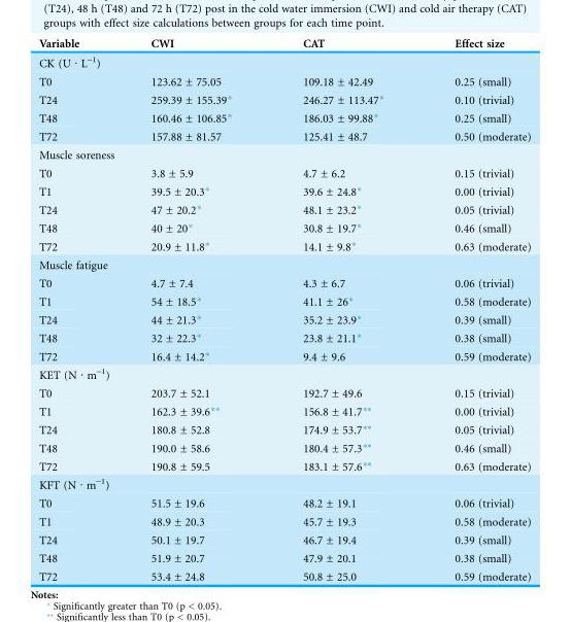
<table><thead><tr><td>Variable</td><td>CWI</td><td>CAT</td><td>Effect size</td></tr></thead><tbody><tr><td colspan="4">CK (U · L<sup>-1</sup>)</td></tr><tr><td>T0</td><td>123.62 ± 75.05</td><td>109.18 ± 42.49</td><td>0.25 (small)</td></tr><tr><td>T24</td><td>259.39 ± 155.39*</td><td>246.27 ± 113.47*</td><td>0.10 (trivial)</td></tr><tr><td>T48</td><td>160.46 ± 106.85*</td><td>186.03 ± 99.88*</td><td>0.25 (small)</td></tr><tr><td>T72</td><td>157.88 ± 81.57</td><td>125.41 ± 48.7</td><td>0.50 (moderate)</td></tr><tr><td colspan="4">Muscle soreness</td></tr><tr><td>T0</td><td>3.8 ± 5.9</td><td>4.7 ± 6.2</td><td>0.15 (trivial)</td></tr><tr><td>T1</td><td>39.5 ± 20.3*</td><td>39.6 ± 24.8*</td><td>0.00 (trivial)</td></tr><tr><td>T24</td><td>47 ± 20.2*</td><td>48.1 ± 23.2*</td><td>0.05 (trivial)</td></tr><tr><td>T48</td><td>40 ± 20*</td><td>30.8 ± 19.7*</td><td>0.46 (small)</td></tr><tr><td>T72</td><td>20.9 ± 11.8*</td><td>14.1 ± 9.8*</td><td>0.63 (moderate)</td></tr><tr><td colspan="4">Muscle fatigue</td></tr><tr><td>T0</td><td>4.7 ± 7.4</td><td>4.3 ± 6.7</td><td>0.06 (trivial)</td></tr><tr><td>T1</td><td>54 ± 18.5*</td><td>41.1 ± 26*</td><td>0.58 (moderate)</td></tr><tr><td>T24</td><td>44 ± 21.3*</td><td>35.2 ± 23.9*</td><td>0.39 (small)</td></tr><tr><td>T48</td><td>32 ± 22.3*</td><td>23.8 ± 21.1*</td><td>0.38 (small)</td></tr><tr><td>T72</td><td>16.4 ± 14.2*</td><td>9.4 ± 9.6</td><td>0.59 (moderate)</td></tr><tr><td colspan="4">KET (N · m<sup>-1</sup>)</td></tr><tr><td>T0</td><td>203.7 ± 52.1</td><td>192.7 ± 49.6</td><td>0.15 (trivial)</td></tr><tr><td>T1</td><td>162.3 ± 39.6**</td><td>156.8 ± 41.7**</td><td>0.00 (trivial)</td></tr><tr><td>T24</td><td>180.8 ± 52.8</td><td>174.9 ± 53.7**</td><td>0.05 (trivial)</td></tr><tr><td>T48</td><td>190.0 ± 58.6</td><td>180.4 ± 57.3**</td><td>0.46 (small)</td></tr><tr><td>T72</td><td>190.8 ± 59.5</td><td>183.1 ± 57.6**</td><td>0.63 (moderate)</td></tr><tr><td colspan="4">KFT (N · m<sup>-1</sup>)</td></tr><tr><td>T0</td><td>51.5 ± 19.6</td><td>48.2 ± 19.1</td><td>0.06 (trivial)</td></tr><tr><td>T1</td><td>48.9 ± 20.3</td><td>45.7 ± 19.3</td><td>0.58 (moderate)</td></tr><tr><td>T24</td><td>50.1 ± 19.7</td><td>46.7 ± 19.4</td><td>0.39 (small)</td></tr><tr><td>T48</td><td>51.9 ± 20.7</td><td>47.9 ± 20.1</td><td>0.38 (small)</td></tr><tr><td>T72</td><td>53.4 ± 24.8</td><td>50.8 ± 25.0</td><td>0.59 (moderate)</td></tr></tbody></table>